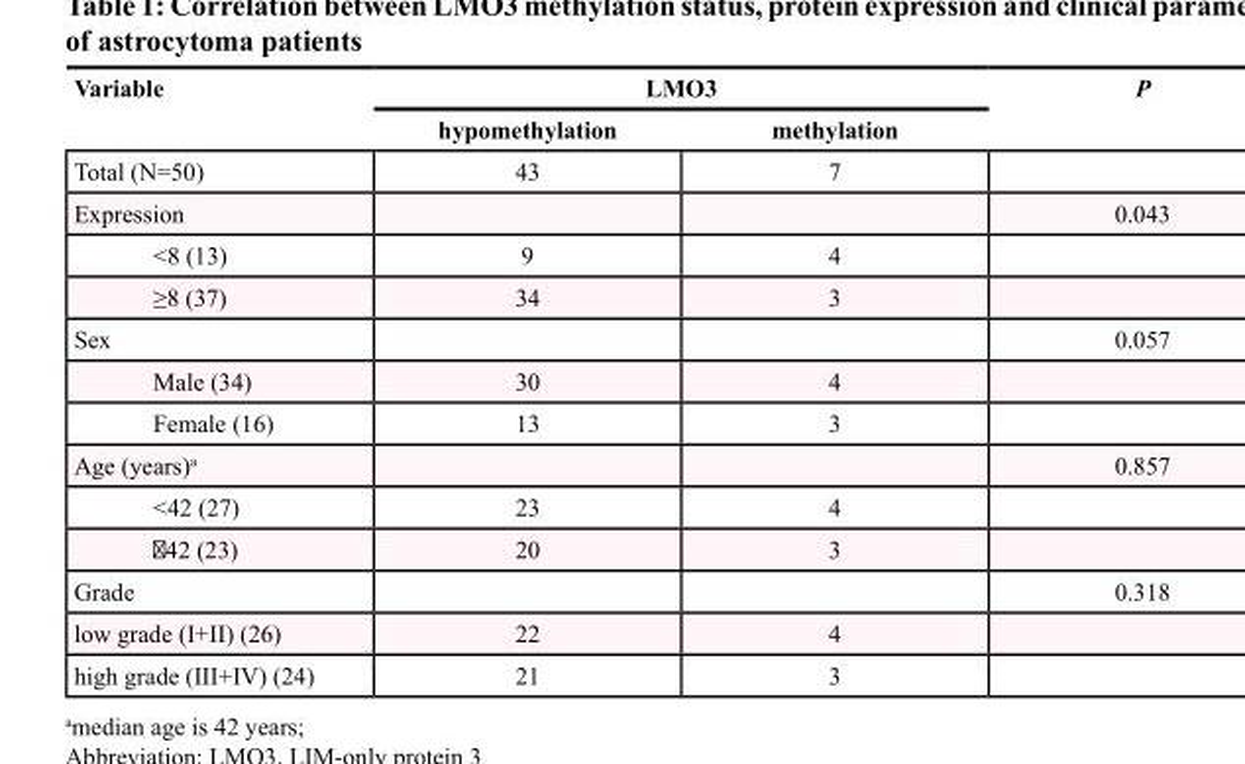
<table><thead><tr><td rowspan="2">Variable</td><td colspan="2">LMO3</td><td rowspan="2">P</td></tr><tr><td>hypomethylation</td><td>methylation</td></tr></thead><tbody><tr><td>Total (N=50)</td><td>43</td><td>7</td><td></td></tr><tr><td>Expression</td><td></td><td></td><td>0.043</td></tr><tr><td>&lt;8 (13)</td><td>9</td><td>4</td><td></td></tr><tr><td>≥8 (37)</td><td>34</td><td>3</td><td></td></tr><tr><td>Sex</td><td></td><td></td><td>0.057</td></tr><tr><td>Male (34)</td><td>30</td><td>4</td><td></td></tr><tr><td>Female (16)</td><td>13</td><td>3</td><td></td></tr><tr><td>Age (years)<sup>a</sup></td><td></td><td></td><td>0.857</td></tr><tr><td>&lt;42 (27)</td><td>23</td><td>4</td><td></td></tr><tr><td>≧42 (23)</td><td>20</td><td>3</td><td></td></tr><tr><td>Grade</td><td></td><td></td><td>0.318</td></tr><tr><td>low grade (I+II) (26)</td><td>22</td><td>4</td><td></td></tr><tr><td>high grade (III+IV) (24)</td><td>21</td><td>3</td><td></td></tr></tbody></table>